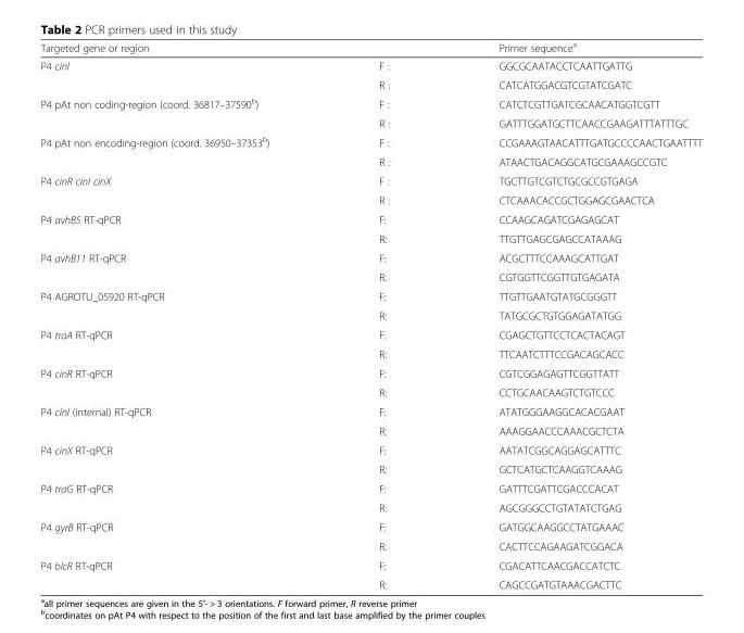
<table><thead><tr><td>Targeted gene or region</td><td></td><td>Primer sequence<sup>a</sup></td></tr></thead><tbody><tr><td rowspan="2">P4 cinI</td><td>F :</td><td>GGCGCAATACCTCAATTGATTG</td></tr><tr><td>R :</td><td>CATCATGGACGTCGTATCGATC</td></tr><tr><td rowspan="2">P4 pAt non coding-region (coord. 36817–37590<sup>b</sup>)</td><td>F :</td><td>CATCTCGTTGATCGCAACATGGTCGTT</td></tr><tr><td>R :</td><td>GATTTGGATGCTTCAACCGAAGATTTATTTGC</td></tr><tr><td rowspan="2">P4 pAt non encoding-region (coord. 36950–37353<sup>b</sup>)</td><td>F :</td><td>CCGAAAGTAACATTTGATGCCCCAACTGAATTTT</td></tr><tr><td>R :</td><td>ATAACTGACAGGCATGCGAAAGCCGTC</td></tr><tr><td rowspan="2">P4 cinR cinI cinX</td><td>F :</td><td>TGCTTGTCGTCTGCGCCGTGAGA</td></tr><tr><td>R :</td><td>CTCAAACACCGCTGGAGCGAACTCA</td></tr><tr><td rowspan="2">P4 avhB5 RT-qPCR</td><td>F:</td><td>CCAAGCAGATCGAGAGCAT</td></tr><tr><td>R:</td><td>TTGTTGAGCGAGCCATAAAG</td></tr><tr><td rowspan="2">P4 avhB11 RT-qPCR</td><td>F:</td><td>ACGCTTTCCAAAGCATTGAT</td></tr><tr><td>R:</td><td>CGTGGTTCGGTTGTGAGATA</td></tr><tr><td rowspan="2">P4 AGROTU_05920 RT-qPCR</td><td>F:</td><td>TTGTTGAATGTATGCGGGTT</td></tr><tr><td>R:</td><td>TATGCGCTGTGGAGATATGG</td></tr><tr><td rowspan="2">P4 traA RT-qPCR</td><td>F:</td><td>CGAGCTGTTCCTCACTACAGT</td></tr><tr><td>R:</td><td>TTCAATCTTTCCGACAGCACC</td></tr><tr><td rowspan="2">P4 cinR RT-qPCR</td><td>F:</td><td>CGTCGGAGAGTTCGGTTATT</td></tr><tr><td>R:</td><td>CCTGCAACAAGTCTGTCCC</td></tr><tr><td rowspan="2">P4 cinI (internal) RT-qPCR</td><td>F:</td><td>ATATGGGAAGGCACACGAAT</td></tr><tr><td>R:</td><td>AAAGGAACCCAAACGCTCTA</td></tr><tr><td rowspan="2">P4 cinX RT-qPCR</td><td>F:</td><td>AATATCGGCAGGAGCATTTC</td></tr><tr><td>R:</td><td>GCTCATGCTCAAGGTCAAAG</td></tr><tr><td rowspan="2">P4 traG RT-qPCR</td><td>F:</td><td>GATTTCGATTCGACCCACAT</td></tr><tr><td>R:</td><td>AGCGGGCCTGTATATCTGAG</td></tr><tr><td rowspan="2">P4 gyrB RT-qPCR</td><td>F:</td><td>GATGGCAAGGCCTATGAAAC</td></tr><tr><td>R:</td><td>CACTTCCAGAAGATCGGACA</td></tr><tr><td rowspan="2">P4 blcR RT-qPCR</td><td>F:</td><td>CGACATTCAACGACCATCTC</td></tr><tr><td>R:</td><td>CAGCCGATGTAAACGACTTC</td></tr></tbody></table>